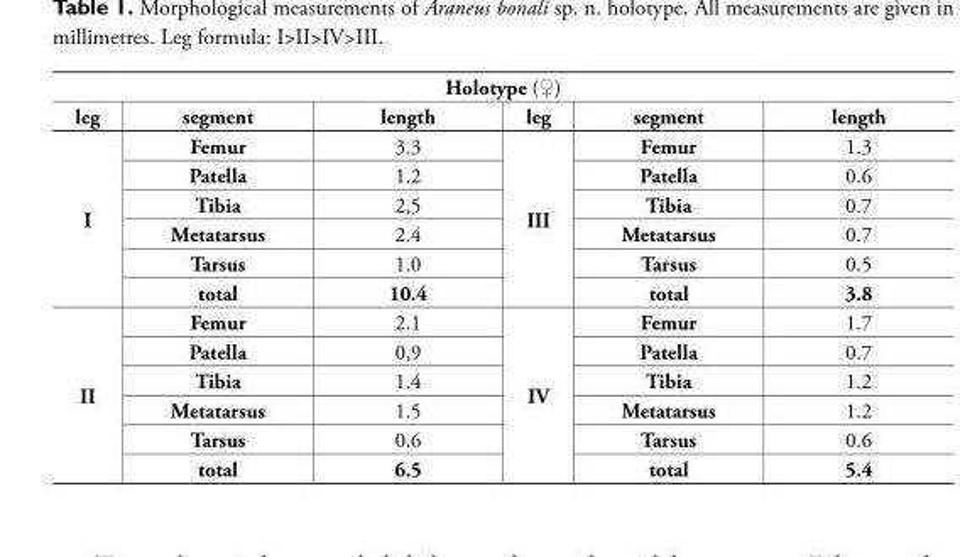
<table><thead><tr><td colspan="6">Holotype (♀)</td></tr><tr><td>leg</td><td>segment</td><td>length</td><td>leg</td><td>segment</td><td>length</td></tr></thead><tbody><tr><td rowspan="6">I</td><td>Femur</td><td>3.3</td><td rowspan="6">III</td><td>Femur</td><td>1.3</td></tr><tr><td>Patella</td><td>1.2</td><td>Patella</td><td>0.6</td></tr><tr><td>Tibia</td><td>2,5</td><td>Tibia</td><td>0.7</td></tr><tr><td>Metatarsus</td><td>2.4</td><td>Metatarsus</td><td>0.7</td></tr><tr><td>Tarsus</td><td>1.0</td><td>Tarsus</td><td>0.5</td></tr><tr><td>total</td><td>10.4</td><td>total</td><td>3.8</td></tr><tr><td rowspan="6">II</td><td>Femur</td><td>2.1</td><td rowspan="6">IV</td><td>Femur</td><td>1.7</td></tr><tr><td>Patella</td><td>0,9</td><td>Patella</td><td>0.7</td></tr><tr><td>Tibia</td><td>1.4</td><td>Tibia</td><td>1.2</td></tr><tr><td>Metatarsus</td><td>1.5</td><td>Metatarsus</td><td>1.2</td></tr><tr><td>Tarsus</td><td>0.6</td><td>Tarsus</td><td>0.6</td></tr><tr><td>total</td><td>6.5</td><td>total</td><td>5.4</td></tr></tbody></table>